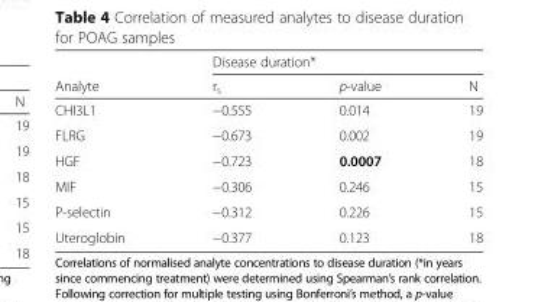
<table><thead><tr><td rowspan="2">Analyte</td><td colspan="3">Disease duration*</td></tr><tr><td>r<sub>s</sub></td><td>p-value</td><td>N</td></tr></thead><tbody><tr><td>CHI3L1</td><td>−0.555</td><td>0.014</td><td>19</td></tr><tr><td>FLRG</td><td>−0.673</td><td>0.002</td><td>19</td></tr><tr><td>HGF</td><td>−0.723</td><td>0.0007</td><td>18</td></tr><tr><td>MIF</td><td>−0.306</td><td>0.246</td><td>15</td></tr><tr><td>P-selectin</td><td>−0.312</td><td>0.226</td><td>15</td></tr><tr><td>Uteroglobin</td><td>−0.377</td><td>0.123</td><td>18</td></tr></tbody></table>